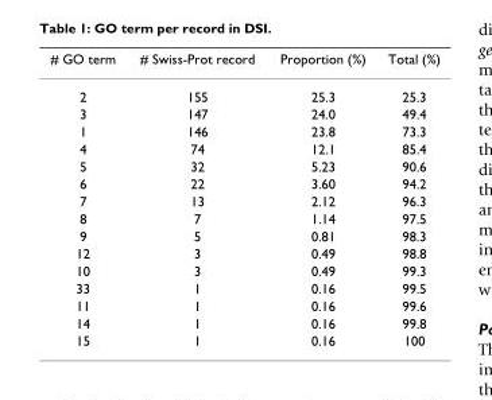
<table><thead><tr><td># GO term</td><td># Swiss-Prot record</td><td>Proportion (%)</td><td>Total (%)</td></tr></thead><tbody><tr><td>2</td><td>155</td><td>25.3</td><td>25.3</td></tr><tr><td>3</td><td>147</td><td>24.0</td><td>49.4</td></tr><tr><td>1</td><td>146</td><td>23.8</td><td>73.3</td></tr><tr><td>4</td><td>74</td><td>12.1</td><td>85.4</td></tr><tr><td>5</td><td>32</td><td>5.23</td><td>90.6</td></tr><tr><td>6</td><td>22</td><td>3.60</td><td>94.2</td></tr><tr><td>7</td><td>13</td><td>2.12</td><td>96.3</td></tr><tr><td>8</td><td>7</td><td>1.14</td><td>97.5</td></tr><tr><td>9</td><td>5</td><td>0.81</td><td>98.3</td></tr><tr><td>12</td><td>3</td><td>0.49</td><td>98.8</td></tr><tr><td>10</td><td>3</td><td>0.49</td><td>99.3</td></tr><tr><td>33</td><td>1</td><td>0.16</td><td>99.5</td></tr><tr><td>11</td><td>1</td><td>0.16</td><td>99.6</td></tr><tr><td>14</td><td>1</td><td>0.16</td><td>99.8</td></tr><tr><td>15</td><td>1</td><td>0.16</td><td>100</td></tr></tbody></table>